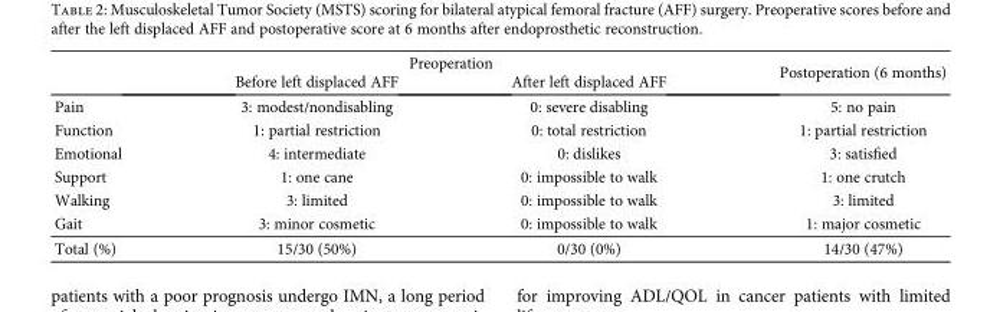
<table><thead><tr><td rowspan="2"></td><td colspan="2">Preoperation</td><td rowspan="2">Postoperation (6 months)</td></tr><tr><td>Before left displaced AFF</td><td>After left displaced AFF</td></tr></thead><tbody><tr><td>Pain</td><td>3: modest/nondisabling</td><td>0: severe disabling</td><td>5: no pain</td></tr><tr><td>Function</td><td>1: partial restriction</td><td>0: total restriction</td><td>1: partial restriction</td></tr><tr><td>Emotional</td><td>4: intermediate</td><td>0: dislikes</td><td>3: satisfied</td></tr><tr><td>Support</td><td>1: one cane</td><td>0: impossible to walk</td><td>1: one crutch</td></tr><tr><td>Walking</td><td>3: limited</td><td>0: impossible to walk</td><td>3: limited</td></tr><tr><td>Gait</td><td>3: minor cosmetic</td><td>0: impossible to walk</td><td>1: major cosmetic</td></tr><tr><td>Total (%)</td><td>15/30 (50%)</td><td>0/30 (0%)</td><td>14/30 (47%)</td></tr></tbody></table>